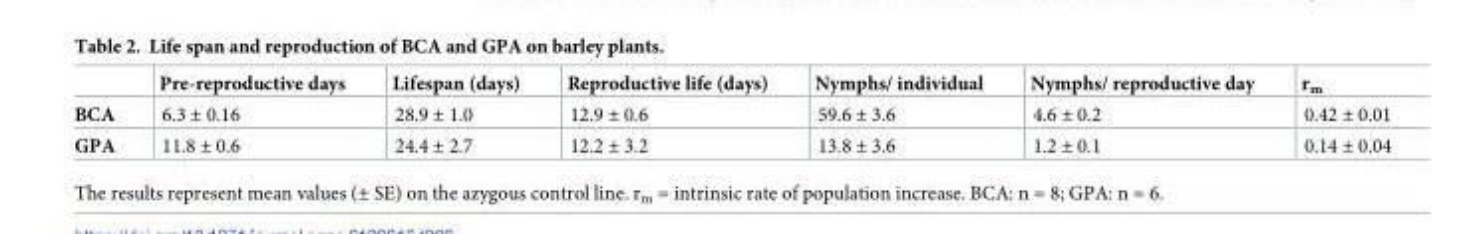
<table><thead><tr><td></td><td>Pre-reproductive days</td><td>Lifespan (days)</td><td>Reproductive life (days)</td><td>Nymphs/ individual</td><td>Nymphs/ reproductive day</td><td>r<sub>m</sub></td></tr></thead><tbody><tr><td>BCA</td><td>6.3 ± 0.16</td><td>28.9 ± 1.0</td><td>12.9 ± 0.6</td><td>59.6 ± 3.6</td><td>4.6 ± 0.2</td><td>0.42 ± 0.01</td></tr><tr><td>GPA</td><td>11.8 ± 0.6</td><td>24.4 ± 2.7</td><td>12.2 ± 3.2</td><td>13.8 ± 3.6</td><td>1.2 ± 0.1</td><td>0.14 ± 0.04</td></tr></tbody></table>